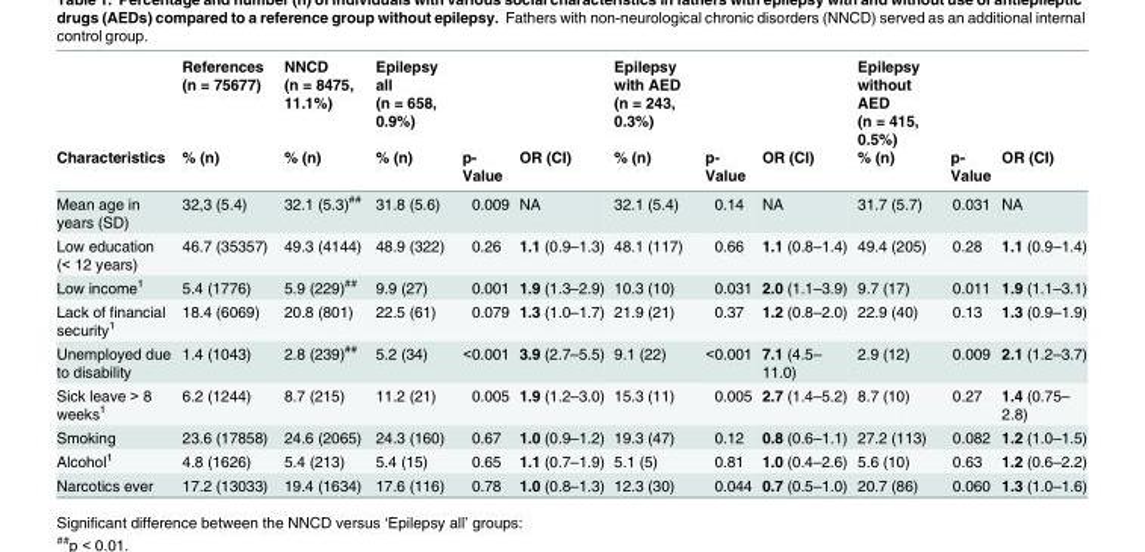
<table><thead><tr><td rowspan="2">Characteristics</td><td rowspan="2">References (n = 75677) % (n)</td><td rowspan="2">NNCD (n = 8475, 11.1%) % (n)</td><td rowspan="2">Epilepsy all (n = 658, 0.9%) % (n)</td><td rowspan="2">p- Value</td><td rowspan="2">OR (CI)</td><td rowspan="2">Epilepsy with AED (n = 243, 0.3%) % (n)</td><td rowspan="2">p- Value</td><td rowspan="2">OR (CI)</td><td rowspan="2">Epilepsy without AED (n = 415, 0.5%) % (n)</td><td rowspan="2">p- Value</td><td rowspan="2">OR (CI)</td></tr><tr></tr></thead><tbody><tr><td>Mean age in years (SD)</td><td>32,3 (5.4)</td><td>32.1 (5.3)<sup>##</sup></td><td>31.8 (5.6)</td><td>0.009</td><td>NA</td><td>32.1 (5.4)</td><td>0.14</td><td>NA</td><td>31.7 (5.7)</td><td>0.031</td><td>NA</td></tr><tr><td>Low education (&lt; 12 years)</td><td>46.7 (35357)</td><td>49.3 (4144)</td><td>48.9 (322)</td><td>0.26</td><td>1.1 (0.9–1.3)</td><td>48.1 (117)</td><td>0.66</td><td>1.1 (0.8–1.4)</td><td>49.4 (205)</td><td>0.28</td><td>1.1 (0.9–1.4)</td></tr><tr><td>Low income<sup>1</sup></td><td>5.4 (1776)</td><td>5.9 (229)<sup>##</sup></td><td>9.9 (27)</td><td>0.001</td><td>1.9 (1.3–2.9)</td><td>10.3 (10)</td><td>0.031</td><td>2.0 (1.1–3.9)</td><td>9.7 (17)</td><td>0.011</td><td>1.9 (1.1–3.1)</td></tr><tr><td>Lack of financial security<sup>1</sup></td><td>18.4 (6069)</td><td>20.8 (801)</td><td>22.5 (61)</td><td>0.079</td><td>1.3 (1.0–1.7)</td><td>21.9 (21)</td><td>0.37</td><td>1.2 (0.8–2.0)</td><td>22.9 (40)</td><td>0.13</td><td>1.3 (0.9–1.9)</td></tr><tr><td>Unemployed due to disability</td><td>1.4 (1043)</td><td>2.8 (239)<sup>##</sup></td><td>5.2 (34)</td><td>&lt;0.001</td><td>3.9 (2.7–5.5)</td><td>9.1 (22)</td><td>&lt;0.001</td><td>7.1 (4.5– 11.0)</td><td>2.9 (12)</td><td>0.009</td><td>2.1 (1.2–3.7)</td></tr><tr><td>Sick leave &gt; 8 weeks<sup>1</sup></td><td>6.2 (1244)</td><td>8.7 (215)</td><td>11.2 (21)</td><td>0.005</td><td>1.9 (1.2–3.0)</td><td>15.3 (11)</td><td>0.005</td><td>2.7 (1.4–5.2)</td><td>8.7 (10)</td><td>0.27</td><td>1.4 (0.75– 2.8)</td></tr><tr><td>Smoking</td><td>23.6 (17858)</td><td>24.6 (2065)</td><td>24.3 (160)</td><td>0.67</td><td>1.0 (0.9–1.2)</td><td>19.3 (47)</td><td>0.12</td><td>0.8 (0.6–1.1)</td><td>27.2 (113)</td><td>0.082</td><td>1.2 (1.0–1.5)</td></tr><tr><td>Alcohol<sup>1</sup></td><td>4.8 (1626)</td><td>5.4 (213)</td><td>5.4 (15)</td><td>0.65</td><td>1.1 (0.7–1.9)</td><td>5.1 (5)</td><td>0.81</td><td>1.0 (0.4–2.6)</td><td>5.6 (10)</td><td>0.63</td><td>1.2 (0.6–2.2)</td></tr><tr><td>Narcotics ever</td><td>17.2 (13033)</td><td>19.4 (1634)</td><td>17.6 (116)</td><td>0.78</td><td>1.0 (0.8–1.3)</td><td>12.3 (30)</td><td>0.044</td><td>0.7 (0.5–1.0)</td><td>20.7 (86)</td><td>0.060</td><td>1.3 (1.0–1.6)</td></tr></tbody></table>